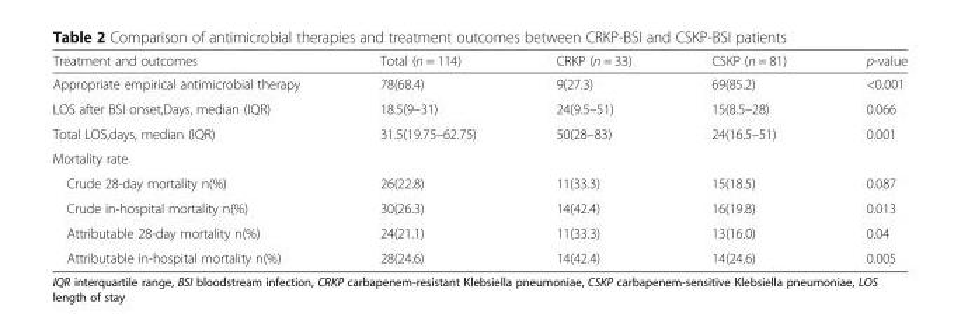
<table><thead><tr><td>Treatment and outcomes</td><td>Total (n = 114)</td><td>CRKP (n = 33)</td><td>CSKP (n = 81)</td><td>p-value</td></tr></thead><tbody><tr><td>Appropriate empirical antimicrobial therapy</td><td>78(68.4)</td><td>9(27.3)</td><td>69(85.2)</td><td>&lt;0.001</td></tr><tr><td>LOS after BSI onset,Days, median (IQR)</td><td>18.5(9–31)</td><td>24(9.5–51)</td><td>15(8.5–28)</td><td>0.066</td></tr><tr><td>Total LOS,days, median (IQR)</td><td>31.5(19.75–62.75)</td><td>50(28–83)</td><td>24(16.5–51)</td><td>0.001</td></tr><tr><td colspan="5">Mortality rate</td></tr><tr><td>Crude 28-day mortality n(%)</td><td>26(22.8)</td><td>11(33.3)</td><td>15(18.5)</td><td>0.087</td></tr><tr><td>Crude in-hospital mortality n(%)</td><td>30(26.3)</td><td>14(42.4)</td><td>16(19.8)</td><td>0.013</td></tr><tr><td>Attributable 28-day mortality n(%)</td><td>24(21.1)</td><td>11(33.3)</td><td>13(16.0)</td><td>0.04</td></tr><tr><td>Attributable in-hospital mortality n(%)</td><td>28(24.6)</td><td>14(42.4)</td><td>14(24.6)</td><td>0.005</td></tr></tbody></table>